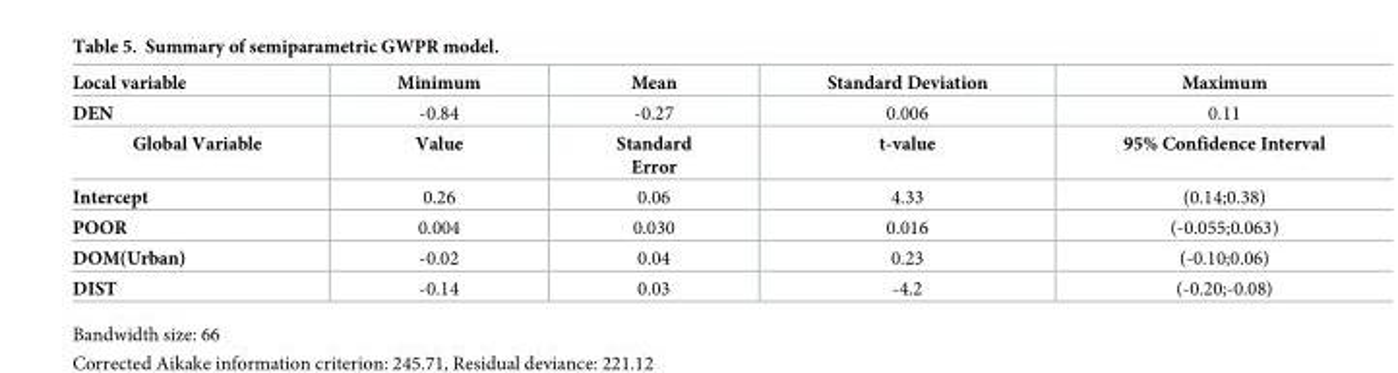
<table><thead><tr><td>Local variable</td><td>Minimum</td><td>Mean</td><td>Standard Deviation</td><td>Maximum</td></tr></thead><tbody><tr><td>DEN</td><td>-0.84</td><td>-0.27</td><td>0.006</td><td>0.11</td></tr><tr><td>Global Variable</td><td>Value</td><td>Standard Error</td><td>t-value</td><td>95% Confidence Interval</td></tr><tr><td>Intercept</td><td>0.26</td><td>0.06</td><td>4.33</td><td>(0.14;0.38)</td></tr><tr><td>POOR</td><td>0.004</td><td>0.030</td><td>0.016</td><td>(-0.055;0.063)</td></tr><tr><td>DOM(Urban)</td><td>-0.02</td><td>0.04</td><td>0.23</td><td>(-0.10;0.06)</td></tr><tr><td>DIST</td><td>-0.14</td><td>0.03</td><td>-4.2</td><td>(-0.20;-0.08)</td></tr></tbody></table>